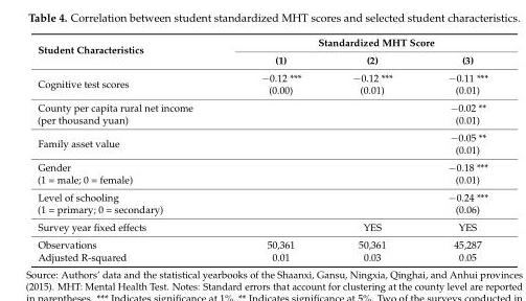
<table><thead><tr><td rowspan="2">Student Characteristics</td><td colspan="3">Standardized MHT Score</td></tr><tr><td>(1)</td><td>(2)</td><td>(3)</td></tr></thead><tbody><tr><td>Cognitive test scores</td><td>−0.12 *** (0.00)</td><td>−0.12 *** (0.01)</td><td>−0.11 *** (0.01)</td></tr><tr><td>County per capita rural net income (per thousand yuan)</td><td></td><td></td><td>−0.02 ** (0.01)</td></tr><tr><td>Family asset value</td><td></td><td></td><td>−0.05 ** (0.01)</td></tr><tr><td>Gender (1 = male; 0 = female)</td><td></td><td></td><td>−0.18 *** (0.01)</td></tr><tr><td>Level of schooling (1 = primary; 0 = secondary)</td><td></td><td></td><td>−0.24 *** (0.06)</td></tr><tr><td>Survey year fixed effects</td><td></td><td>YES</td><td>YES</td></tr><tr><td>Observations</td><td>50,361</td><td>50,361</td><td>45,287</td></tr><tr><td>Adjusted R-squared</td><td>0.01</td><td>0.03</td><td>0.05</td></tr></tbody></table>